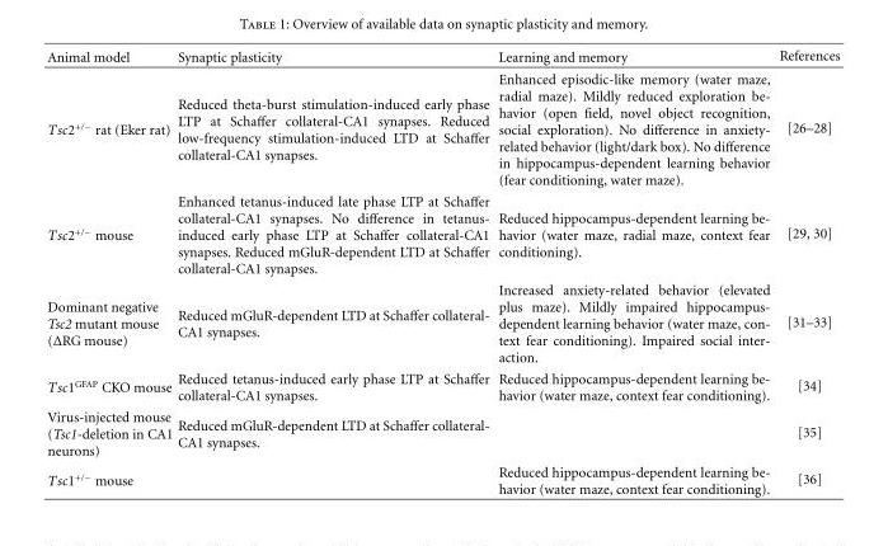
<table><thead><tr><td>Animal model</td><td>Synaptic plasticity</td><td>Learning and memory</td><td>References</td></tr></thead><tbody><tr><td>Tsc2<sup>+/−</sup> rat (Eker rat)</td><td>Reduced theta-burst stimulation-induced early phase LTP at Schaffer collateral-CA1 synapses. Reduced low-frequency stimulation-induced LTD at Schaffer collateral-CA1 synapses.</td><td>Enhanced episodic-like memory (water maze, radial maze). Mildly reduced exploration be- havior (open field, novel object recognition, social exploration). No difference in anxiety- related behavior (light/dark box). No difference in hippocampus-dependent learning behavior (fear conditioning, water maze).</td><td>[26–28]</td></tr><tr><td>Tsc2<sup>+/−</sup> mouse</td><td>Enhanced tetanus-induced late phase LTP at Schaffer collateral-CA1 synapses. No difference in tetanus- induced early phase LTP at Schaffer collateral-CA1 synapses. Reduced mGluR-dependent LTD at Schaffer collateral-CA1 synapses.</td><td>Reduced hippocampus-dependent learning be- havior (water maze, radial maze, context fear conditioning).</td><td>[29, 30]</td></tr><tr><td>Dominant negative Tsc2 mutant mouse (ΔRG mouse)</td><td>Reduced mGluR-dependent LTD at Schaffer collateral- CA1 synapses.</td><td>Increased anxiety-related behavior (elevated plus maze). Mildly impaired hippocampus- dependent learning behavior (water maze, con- text fear conditioning). Impaired social inter- action.</td><td>[31–33]</td></tr><tr><td>Tsc1<sup>GFAP</sup> CKO mouse</td><td>Reduced tetanus-induced early phase LTP at Schaffer collateral-CA1 synapses.</td><td>Reduced hippocampus-dependent learning be- havior (water maze, context fear conditioning).</td><td>[34]</td></tr><tr><td>Virus-injected mouse (Tsc1-deletion in CA1 neurons)</td><td>Reduced mGluR-dependent LTD at Schaffer collateral- CA1 synapses.</td><td></td><td>[35]</td></tr><tr><td>Tsc1<sup>+/−</sup> mouse</td><td></td><td>Reduced hippocampus-dependent learning be- havior (water maze, context fear conditioning).</td><td>[36]</td></tr></tbody></table>